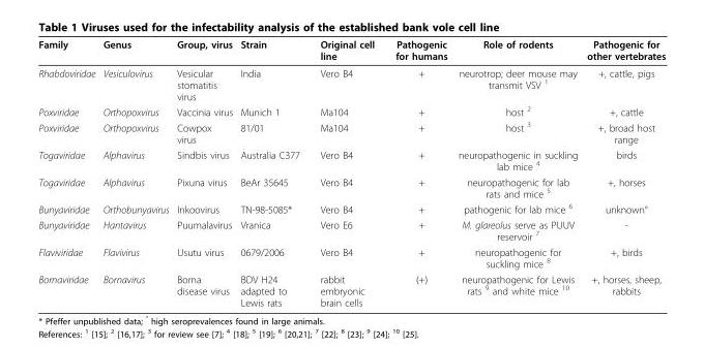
<table><thead><tr><td>Family</td><td>Genus</td><td>Group, virus</td><td>Strain</td><td>Original cell line</td><td>Pathogenic for humans</td><td>Role of rodents</td><td>Pathogenic for other vertebrates</td></tr></thead><tbody><tr><td>Rhabdoviridae</td><td>Vesiculovirus</td><td>Vesicular stomatitis virus</td><td>India</td><td>Vero B4</td><td>+</td><td>neurotrop; deer mouse may transmit VSV <sup>1</sup></td><td>+, cattle, pigs</td></tr><tr><td>Poxviridae</td><td>Orthopoxvirus</td><td>Vaccinia virus</td><td>Munich 1</td><td>Ma104</td><td>+</td><td>host <sup>2</sup></td><td>+, cattle</td></tr><tr><td>Poxviridae</td><td>Orthopoxvirus</td><td>Cowpox virus</td><td>81/01</td><td>Ma104</td><td>+</td><td>host <sup>3</sup></td><td>+, broad host range</td></tr><tr><td>Togaviridae</td><td>Alphavirus</td><td>Sindbis virus</td><td>Australia C377</td><td>Vero B4</td><td>+</td><td>neuropathogenic in suckling lab mice <sup>4</sup></td><td>birds</td></tr><tr><td>Togaviridae</td><td>Alphavirus</td><td>Pixuna virus</td><td>BeAr 35645</td><td>Vero B4</td><td>+</td><td>neuropathogenic for lab rats and mice <sup>5</sup></td><td>+, horses</td></tr><tr><td>Bunyaviridae</td><td>Orthobunyavirus</td><td>Inkoovirus</td><td>TN-98-5085*</td><td>Vero B4</td><td>+</td><td>pathogenic for lab mice <sup>6</sup></td><td>unknown°</td></tr><tr><td>Bunyaviridae</td><td>Hantavirus</td><td>Puumalavirus</td><td>Vranica</td><td>Vero E6</td><td>+</td><td>M. glareolus serve as PUUV reservoir <sup>7</sup></td><td>-</td></tr><tr><td>Flaviviridae</td><td>Flavivirus</td><td>Usutu virus</td><td>0679/2006</td><td>Vero B4</td><td>+</td><td>neuropathogenic for suckling mice <sup>8</sup></td><td>+, birds</td></tr><tr><td>Bornaviridae</td><td>Bornavirus</td><td>Borna disease virus</td><td>BDV H24 adapted to Lewis rats</td><td>rabbit embryonic brain cells</td><td>(+)</td><td>neuropathogenic for Lewis rats <sup>9</sup> and white mice <sup>10</sup></td><td>+, horses, sheep, rabbits</td></tr></tbody></table>